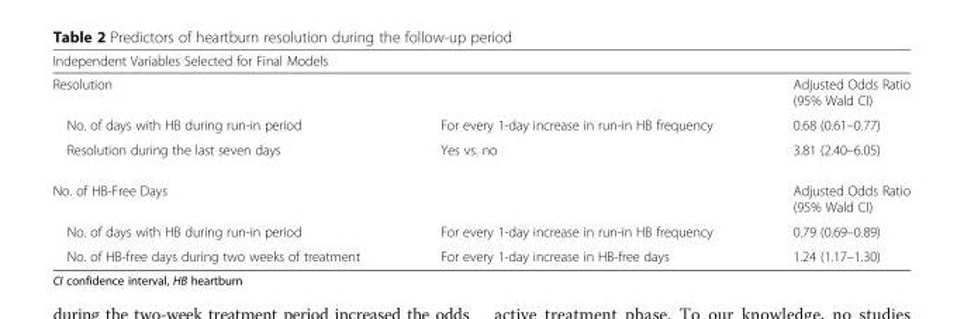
<table><thead><tr><td colspan="3">Independent Variables Selected for Final Models</td></tr><tr><td colspan="2">Resolution</td><td rowspan="2">Adjusted Odds Ratio (95% Wald CI) 0.68 (0.61–0.77)</td></tr><tr><td>No. of days with HB during run-in period</td><td>For every 1-day increase in run-in HB frequency</td></tr></thead><tbody><tr><td>Resolution during the last seven days</td><td>Yes vs. no</td><td>3.81 (2.40–6.05)</td></tr><tr><td colspan="2">No. of HB-Free Days</td><td>Adjusted Odds Ratio (95% Wald CI)</td></tr><tr><td>No. of days with HB during run-in period</td><td>For every 1-day increase in run-in HB frequency</td><td>0.79 (0.69–0.89)</td></tr><tr><td>No. of HB-free days during two weeks of treatment</td><td>For every 1-day increase in HB-free days</td><td>1.24 (1.17–1.30)</td></tr></tbody></table>